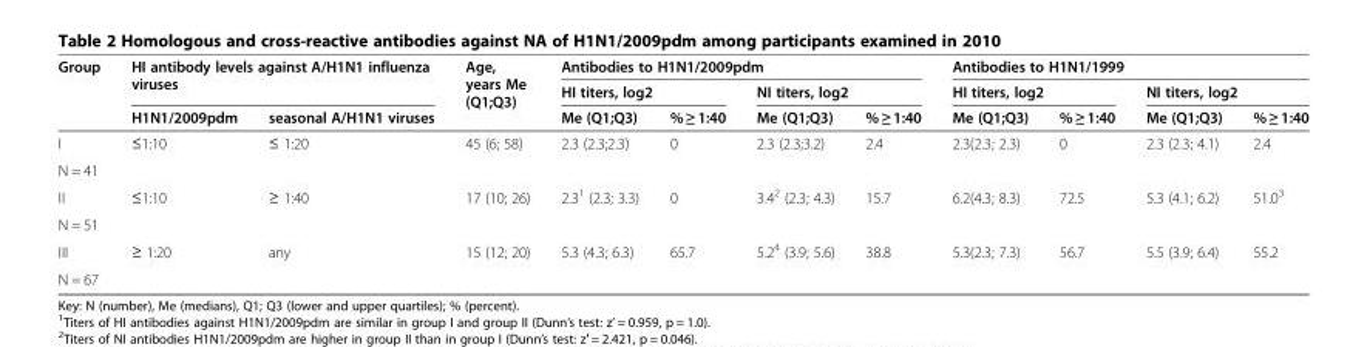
<table><thead><tr><td rowspan="3">Group</td><td rowspan="2" colspan="2">HI antibody levels against A/H1N1 influenza viruses</td><td rowspan="3">Age, years Me (Q1;Q3)</td><td colspan="4">Antibodies to H1N1/2009pdm</td><td colspan="4">Antibodies to H1N1/1999</td></tr><tr><td colspan="2">HI titers, log2</td><td colspan="2">NI titers, log2</td><td colspan="2">HI titers, log2</td><td colspan="2">NI titers, log2</td></tr><tr><td>H1N1/2009pdm</td><td>seasonal A/H1N1 viruses</td><td>Me (Q1;Q3)</td><td>% ≥ 1:40</td><td>Me (Q1;Q3)</td><td>% ≥ 1:40</td><td>Me (Q1;Q3)</td><td>% ≥ 1:40</td><td>Me (Q1;Q3)</td><td>% ≥ 1:40</td></tr></thead><tbody><tr><td>I</td><td rowspan="2">≤1:10</td><td rowspan="2">≤ 1:20</td><td rowspan="2">45 (6; 58)</td><td rowspan="2">2.3 (2.3;2.3)</td><td rowspan="2">0</td><td rowspan="2">2.3 (2.3;3.2)</td><td rowspan="2">2.4</td><td rowspan="2">2.3(2.3; 2.3)</td><td rowspan="2">0</td><td rowspan="2">2.3 (2.3; 4.1)</td><td rowspan="2">2.4</td></tr><tr><td>N = 41</td></tr><tr><td>II</td><td rowspan="2">≤1:10</td><td rowspan="2">≥ 1:40</td><td rowspan="2">17 (10; 26)</td><td rowspan="2">2.3<sup>1</sup> (2.3; 3.3)</td><td rowspan="2">0</td><td rowspan="2">3.4<sup>2</sup> (2.3; 4.3)</td><td rowspan="2">15.7</td><td rowspan="2">6.2(4.3; 8.3)</td><td rowspan="2">72.5</td><td rowspan="2">5.3 (4.1; 6.2)</td><td rowspan="2">51.0<sup>3</sup></td></tr><tr><td>N = 51</td></tr><tr><td>III</td><td rowspan="2">≥ 1:20</td><td rowspan="2">any</td><td rowspan="2">15 (12; 20)</td><td rowspan="2">5.3 (4.3; 6.3)</td><td rowspan="2">65.7</td><td rowspan="2">5.2<sup>4</sup> (3.9; 5.6)</td><td rowspan="2">38.8</td><td rowspan="2">5.3(2.3; 7.3)</td><td rowspan="2">56.7</td><td rowspan="2">5.5 (3.9; 6.4)</td><td rowspan="2">55.2</td></tr><tr><td>N = 67</td></tr></tbody></table>